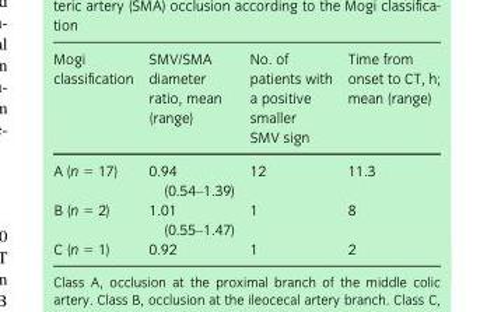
<table><thead><tr><td>Mogi classification</td><td>SMV/SMA diameter ratio, mean (range)</td><td>No. of patients with a positive smaller SMV sign</td><td>Time from onset to CT, h; mean (range)</td></tr></thead><tbody><tr><td>A (n = 17)</td><td>0.94 (0.54–1.39)</td><td>12</td><td>11.3</td></tr><tr><td>B (n = 2)</td><td>1.01 (0.55–1.47)</td><td>1</td><td>8</td></tr><tr><td>C (n = 1)</td><td>0.92</td><td>1</td><td>2</td></tr></tbody></table>